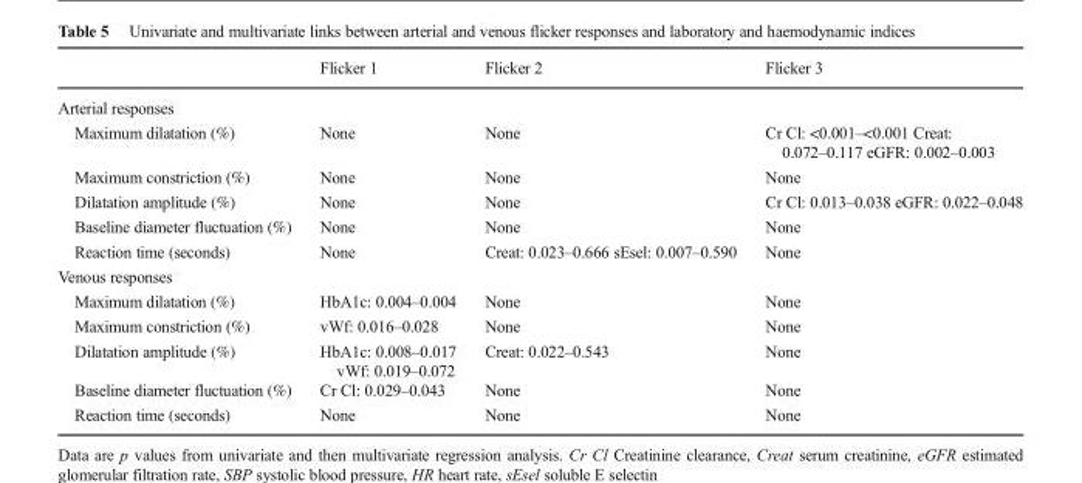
<table><thead><tr><td></td><td>Flicker 1</td><td>Flicker 2</td><td>Flicker 3</td></tr></thead><tbody><tr><td colspan="4">Arterial responses</td></tr><tr><td>Maximum dilatation (%)</td><td>None</td><td>None</td><td>Cr Cl: &lt;0.001–&lt;0.001 Creat: 0.072–0.117 eGFR: 0.002–0.003</td></tr><tr><td>Maximum constriction (%)</td><td>None</td><td>None</td><td>None</td></tr><tr><td>Dilatation amplitude (%)</td><td>None</td><td>None</td><td>Cr Cl: 0.013–0.038 eGFR: 0.022–0.048</td></tr><tr><td>Baseline diameter fluctuation (%)</td><td>None</td><td>None</td><td>None</td></tr><tr><td>Reaction time (seconds)</td><td>None</td><td>Creat: 0.023–0.666 sEsel: 0.007–0.590</td><td>None</td></tr><tr><td colspan="4">Venous responses</td></tr><tr><td>Maximum dilatation (%)</td><td>HbA1c: 0.004–0.004</td><td>None</td><td>None</td></tr><tr><td>Maximum constriction (%)</td><td>vWf: 0.016–0.028</td><td>None</td><td>None</td></tr><tr><td>Dilatation amplitude (%)</td><td>HbA1c: 0.008–0.017 vWf: 0.019–0.072</td><td>Creat: 0.022–0.543</td><td>None</td></tr><tr><td>Baseline diameter fluctuation (%)</td><td>Cr Cl: 0.029–0.043</td><td>None</td><td>None</td></tr><tr><td>Reaction time (seconds)</td><td>None</td><td>None</td><td>None</td></tr></tbody></table>